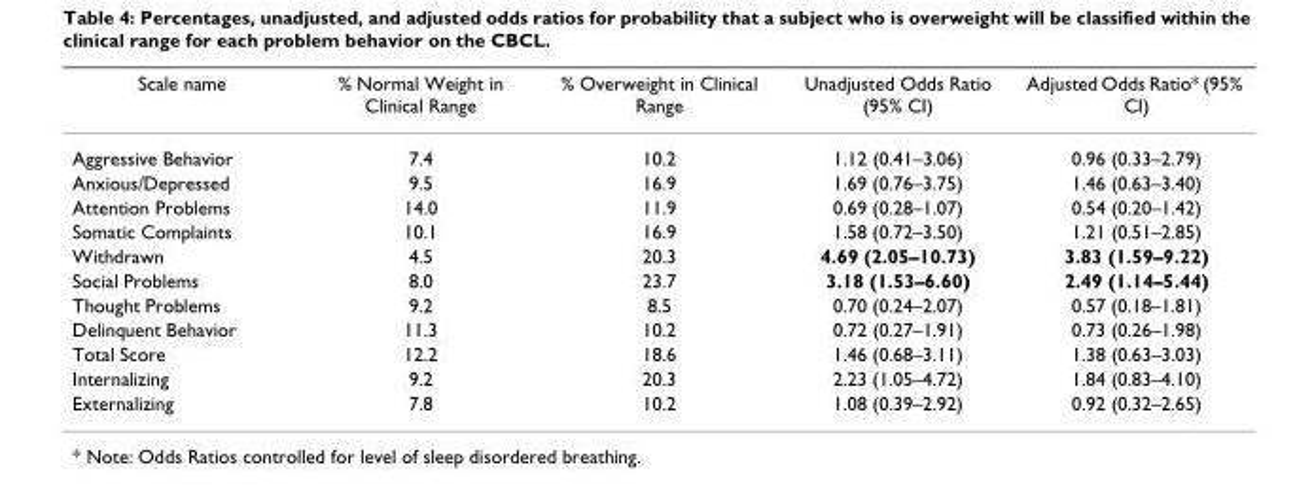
<table><thead><tr><td>Scale name</td><td>% Normal Weight in Clinical Range</td><td>% Overweight in Clinical Range</td><td>Unadjusted Odds Ratio (95% CI)</td><td>Adjusted Odds Ratio* (95% CI)</td></tr></thead><tbody><tr><td>Aggressive Behavior</td><td>7.4</td><td>10.2</td><td>1.12 (0.41–3.06)</td><td>0.96 (0.33–2.79)</td></tr><tr><td>Anxious/Depressed</td><td>9.5</td><td>16.9</td><td>1.69 (0.76–3.75)</td><td>1.46 (0.63–3.40)</td></tr><tr><td>Attention Problems</td><td>14.0</td><td>11.9</td><td>0.69 (0.28–1.07)</td><td>0.54 (0.20–1.42)</td></tr><tr><td>Somatic Complaints</td><td>10.1</td><td>16.9</td><td>1.58 (0.72–3.50)</td><td>1.21 (0.51–2.85)</td></tr><tr><td>Withdrawn</td><td>4.5</td><td>20.3</td><td>4.69 (2.05–10.73)</td><td>3.83 (1.59–9.22)</td></tr><tr><td>Social Problems</td><td>8.0</td><td>23.7</td><td>3.18 (1.53–6.60)</td><td>2.49 (1.14–5.44)</td></tr><tr><td>Thought Problems</td><td>9.2</td><td>8.5</td><td>0.70 (0.24–2.07)</td><td>0.57 (0.18–1.81)</td></tr><tr><td>Delinquent Behavior</td><td>11.3</td><td>10.2</td><td>0.72 (0.27–1.91)</td><td>0.73 (0.26–1.98)</td></tr><tr><td>Total Score</td><td>12.2</td><td>18.6</td><td>1.46 (0.68–3.11)</td><td>1.38 (0.63–3.03)</td></tr><tr><td>Internalizing</td><td>9.2</td><td>20.3</td><td>2.23 (1.05–4.72)</td><td>1.84 (0.83–4.10)</td></tr><tr><td>Externalizing</td><td>7.8</td><td>10.2</td><td>1.08 (0.39–2.92)</td><td>0.92 (0.32–2.65)</td></tr></tbody></table>